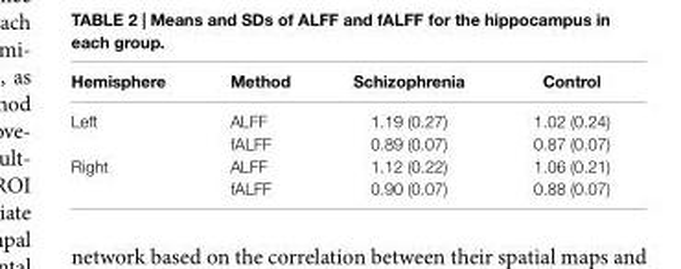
<table><thead><tr><td>hemisphere</td><td>Method</td><td>schizophrenia</td><td>control</td></tr></thead><tbody><tr><td rowspan="2">Left</td><td>ALFF</td><td>1.19 (0.27)</td><td>1.02 (0.24)</td></tr><tr><td>fALFF</td><td>0.89 (0.07)</td><td>0.87 (0.07)</td></tr><tr><td rowspan="2">Right</td><td>ALFF</td><td>1.12 (0.22)</td><td>1.06 (0.21)</td></tr><tr><td>fALFF</td><td>0.90 (0.07)</td><td>0.88 (0.07)</td></tr></tbody></table>